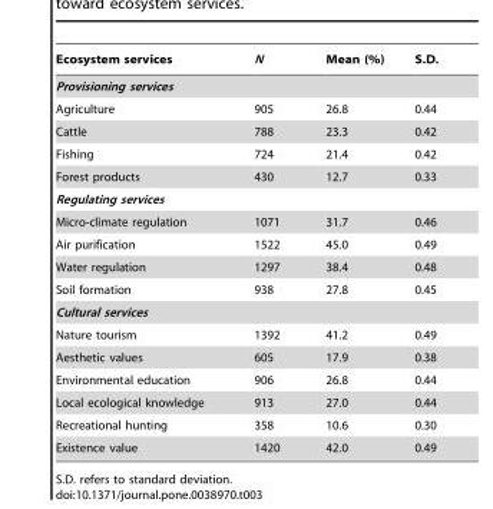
<table><thead><tr><td>Ecosystem services</td><td>N</td><td>Mean (%)</td><td>S.D.</td></tr></thead><tbody><tr><td colspan="4">Provisioning services</td></tr><tr><td>Agriculture</td><td>905</td><td>26.8</td><td>0.44</td></tr><tr><td>Cattle</td><td>788</td><td>23.3</td><td>0.42</td></tr><tr><td>Fishing</td><td>724</td><td>21.4</td><td>0.42</td></tr><tr><td>Forest products</td><td>430</td><td>12.7</td><td>0.33</td></tr><tr><td colspan="4">Regulating services</td></tr><tr><td>Micro-climate regulation</td><td>1071</td><td>31.7</td><td>0.46</td></tr><tr><td>Air purification</td><td>1522</td><td>45.0</td><td>0.49</td></tr><tr><td>Water regulation</td><td>1297</td><td>38.4</td><td>0.48</td></tr><tr><td>Soil formation</td><td>938</td><td>27.8</td><td>0.45</td></tr><tr><td colspan="4">Cultural services</td></tr><tr><td>Nature tourism</td><td>1392</td><td>41.2</td><td>0.49</td></tr><tr><td>Aesthetic values</td><td>605</td><td>17.9</td><td>0.38</td></tr><tr><td>Environmental education</td><td>906</td><td>26.8</td><td>0.44</td></tr><tr><td>Local ecological knowledge</td><td>913</td><td>27.0</td><td>0.44</td></tr><tr><td>Recreational hunting</td><td>358</td><td>10.6</td><td>0.30</td></tr><tr><td>Existence value</td><td>1420</td><td>42.0</td><td>0.49</td></tr></tbody></table>